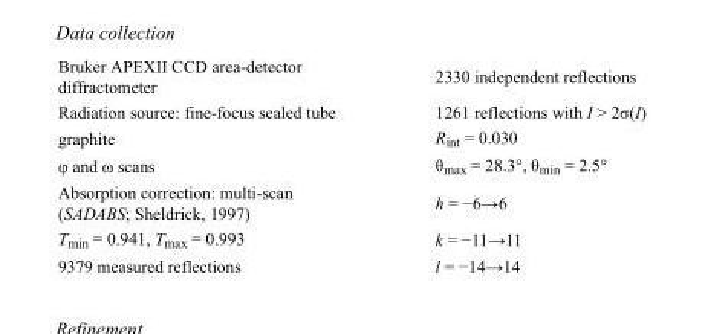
<table><tbody><tr><td>Bruker APEXII CCD area-detector diffractometer</td><td>2330 independent reflections</td></tr><tr><td>Radiation source: fine-focus sealed tube</td><td>1261 reflections with I &gt; 2σ(I)</td></tr><tr><td>graphite</td><td>R<sub>int</sub> = 0.030</td></tr><tr><td>φ and ω scans</td><td>θ<sub>max</sub> = 28.3°, θ<sub>min</sub> = 2.5°</td></tr><tr><td>Absorption correction: multi-scan (SADABS; Sheldrick, 1997)</td><td>h = −6→6</td></tr><tr><td>T<sub>min</sub> = 0.941, T<sub>max</sub> = 0.993</td><td>k = −11→11</td></tr><tr><td>9379 measured reflections</td><td>l = −14→14</td></tr></tbody></table>